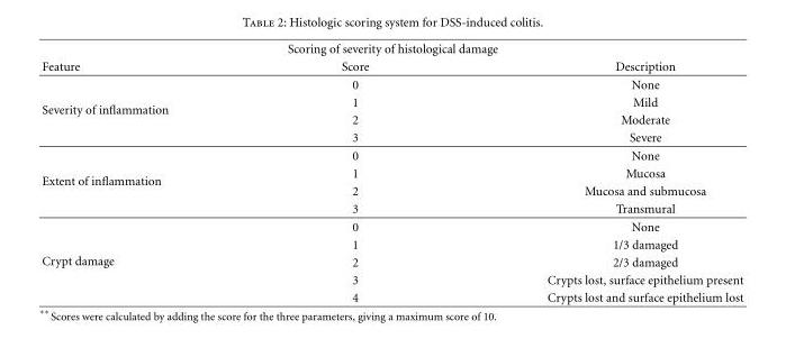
<table><thead><tr><td colspan="3">Scoring of severity of histological damage</td></tr><tr><td>Feature</td><td>Score</td><td>Description</td></tr></thead><tbody><tr><td rowspan="4">Severity of inflammation</td><td>0</td><td>None</td></tr><tr><td>1</td><td>Mild</td></tr><tr><td>2</td><td>Moderate</td></tr><tr><td>3</td><td>Severe</td></tr><tr><td rowspan="4">Extent of inflammation</td><td>0</td><td>None</td></tr><tr><td>1</td><td>Mucosa</td></tr><tr><td>2</td><td>Mucosa and submucosa</td></tr><tr><td>3</td><td>Transmural</td></tr><tr><td rowspan="5">Crypt damage</td><td>0</td><td>None</td></tr><tr><td>1</td><td>1/3 damaged</td></tr><tr><td>2</td><td>2/3 damaged</td></tr><tr><td>3</td><td>Crypts lost, surface epithelium present</td></tr><tr><td>4</td><td>Crypts lost and surface epithelium lost</td></tr></tbody></table>